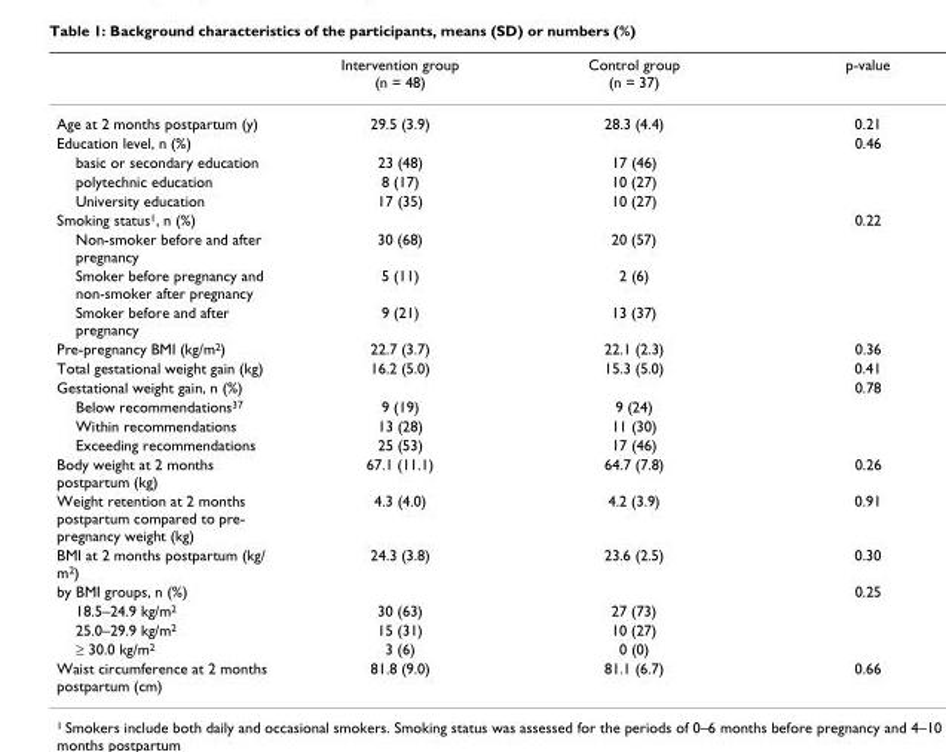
<table><thead><tr><td></td><td>Intervention group (n = 48)</td><td>Control group (n = 37)</td><td>p-value</td></tr></thead><tbody><tr><td>Age at 2 months postpartum (y)</td><td>29.5 (3.9)</td><td>28.3 (4.4)</td><td>0.21</td></tr><tr><td>Education level, n (%)</td><td></td><td></td><td>0.46</td></tr><tr><td>basic or secondary education</td><td>23 (48)</td><td>17 (46)</td><td></td></tr><tr><td>polytechnic education</td><td>8 (17)</td><td>10 (27)</td><td></td></tr><tr><td>University education</td><td>17 (35)</td><td>10 (27)</td><td></td></tr><tr><td>Smoking status<sup>1</sup>, n (%)</td><td></td><td></td><td>0.22</td></tr><tr><td>Non-smoker before and after pregnancy</td><td>30 (68)</td><td>20 (57)</td><td></td></tr><tr><td>Smoker before pregnancy and non-smoker after pregnancy</td><td>5 (11)</td><td>2 (6)</td><td></td></tr><tr><td>Smoker before and after pregnancy</td><td>9 (21)</td><td>13 (37)</td><td></td></tr><tr><td>Pre-pregnancy BMI (kg/m<sup>2</sup>)</td><td>22.7 (3.7)</td><td>22.1 (2.3)</td><td>0.36</td></tr><tr><td>Total gestational weight gain (kg)</td><td>16.2 (5.0)</td><td>15.3 (5.0)</td><td>0.41</td></tr><tr><td>Gestational weight gain, n (%)</td><td></td><td></td><td>0.78</td></tr><tr><td>Below recommendations<sup>37</sup></td><td>9 (19)</td><td>9 (24)</td><td></td></tr><tr><td>Within recommendations</td><td>13 (28)</td><td>11 (30)</td><td></td></tr><tr><td>Exceeding recommendations</td><td>25 (53)</td><td>17 (46)</td><td></td></tr><tr><td>Body weight at 2 months postpartum (kg)</td><td>67.1 (11.1)</td><td>64.7 (7.8)</td><td>0.26</td></tr><tr><td>Weight retention at 2 months postpartum compared to pre- pregnancy weight (kg)</td><td>4.3 (4.0)</td><td>4.2 (3.9)</td><td>0.91</td></tr><tr><td>BMI at 2 months postpartum (kg/ m<sup>2</sup>)</td><td>24.3 (3.8)</td><td>23.6 (2.5)</td><td>0.30</td></tr><tr><td>by BMI groups, n (%)</td><td></td><td></td><td>0.25</td></tr><tr><td>18.5–24.9 kg/m<sup>2</sup></td><td>30 (63)</td><td>27 (73)</td><td></td></tr><tr><td>25.0–29.9 kg/m<sup>2</sup></td><td>15 (31)</td><td>10 (27)</td><td></td></tr><tr><td>≥ 30.0 kg/m<sup>2</sup></td><td>3 (6)</td><td>0 (0)</td><td></td></tr><tr><td>Waist circumference at 2 months postpartum (cm)</td><td>81.8 (9.0)</td><td>81.1 (6.7)</td><td>0.66</td></tr></tbody></table>